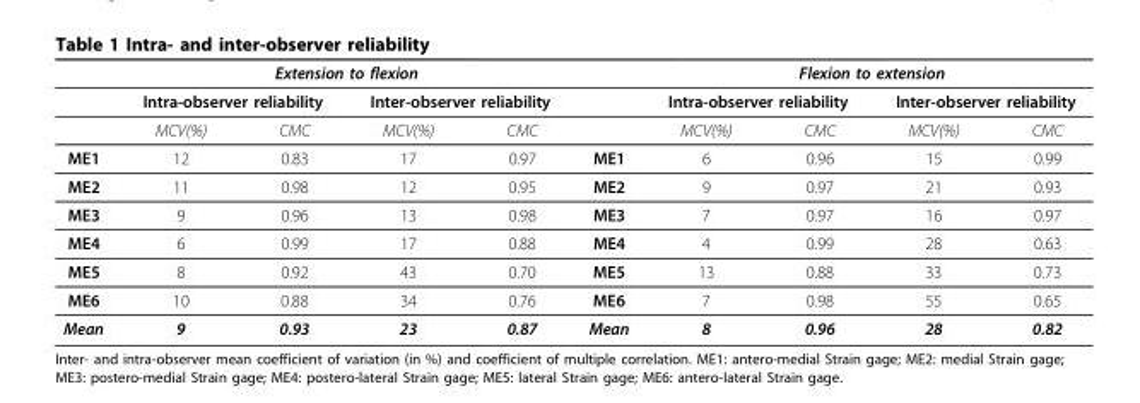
<table><thead><tr><td rowspan="3"></td><td colspan="4">Extension to flexion</td><td rowspan="3"></td><td colspan="4">Flexion to extension</td></tr><tr><td colspan="2">Intra-observer reliability</td><td colspan="2">Inter-observer reliability</td><td colspan="2">Intra-observer reliability</td><td colspan="2">Inter-observer reliability</td></tr><tr><td>MCV(%)</td><td>CMC</td><td>MCV(%)</td><td>CMC</td><td>MCV(%)</td><td>CMC</td><td>MCV(%)</td><td>CMC</td></tr></thead><tbody><tr><td>ME1</td><td>12</td><td>0.83</td><td>17</td><td>0.97</td><td>ME1</td><td>6</td><td>0.96</td><td>15</td><td>0.99</td></tr><tr><td>ME2</td><td>11</td><td>0.98</td><td>12</td><td>0.95</td><td>ME2</td><td>9</td><td>0.97</td><td>21</td><td>0.93</td></tr><tr><td>ME3</td><td>9</td><td>0.96</td><td>13</td><td>0.98</td><td>ME3</td><td>7</td><td>0.97</td><td>16</td><td>0.97</td></tr><tr><td>ME4</td><td>6</td><td>0.99</td><td>17</td><td>0.88</td><td>ME4</td><td>4</td><td>0.99</td><td>28</td><td>0.63</td></tr><tr><td>ME5</td><td>8</td><td>0.92</td><td>43</td><td>0.70</td><td>ME5</td><td>13</td><td>0.88</td><td>33</td><td>0.73</td></tr><tr><td>ME6</td><td>10</td><td>0.88</td><td>34</td><td>0.76</td><td>ME6</td><td>7</td><td>0.98</td><td>55</td><td>0.65</td></tr><tr><td>Mean</td><td>9</td><td>0.93</td><td>23</td><td>0.87</td><td>Mean</td><td>8</td><td>0.96</td><td>28</td><td>0.82</td></tr></tbody></table>